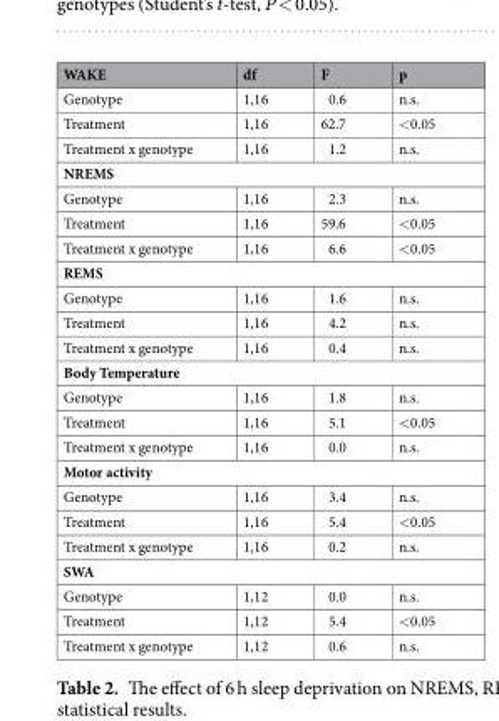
<table><thead><tr><td>WAKE</td><td>df</td><td>F</td><td>p</td></tr></thead><tbody><tr><td>Genotype</td><td>1,16</td><td>0.6</td><td>n.s.</td></tr><tr><td>Treatment</td><td>1,16</td><td>62.7</td><td>&lt;0.05</td></tr><tr><td>Treatment x genotype</td><td>1,16</td><td>1.2</td><td>n.s.</td></tr><tr><td colspan="4">NREMS</td></tr><tr><td>Genotype</td><td>1,16</td><td>2.3</td><td>n.s.</td></tr><tr><td>Treatment</td><td>1,16</td><td>59.6</td><td>&lt;0.05</td></tr><tr><td>Treatment x genotype</td><td>1,16</td><td>6.6</td><td>&lt;0.05</td></tr><tr><td colspan="4">REMS</td></tr><tr><td>Genotype</td><td>1,16</td><td>1.6</td><td>n.s.</td></tr><tr><td>Treatment</td><td>1,16</td><td>4.2</td><td>n.s.</td></tr><tr><td>Treatment x genotype</td><td>1,16</td><td>0.4</td><td>n.s.</td></tr><tr><td colspan="4">Body Temperature</td></tr><tr><td>Genotype</td><td>1,16</td><td>1.8</td><td>n.s.</td></tr><tr><td>Treatment</td><td>1,16</td><td>5.1</td><td>&lt;0.05</td></tr><tr><td>Treatment x genotype</td><td>1,16</td><td>0.0</td><td>n.s.</td></tr><tr><td colspan="4">Motor activity</td></tr><tr><td>Genotype</td><td>1,16</td><td>3.4</td><td>n.s.</td></tr><tr><td>Treatment</td><td>1,16</td><td>5.4</td><td>&lt;0.05</td></tr><tr><td>Treatment x genotype</td><td>1,16</td><td>0.2</td><td>n.s.</td></tr><tr><td colspan="4">SWA</td></tr><tr><td>Genotype</td><td>1,12</td><td>0.0</td><td>n.s.</td></tr><tr><td>Treatment</td><td>1,12</td><td>5.4</td><td>&lt;0.05</td></tr><tr><td>Treatment x genotype</td><td>1,12</td><td>0.6</td><td>n.s.</td></tr></tbody></table>